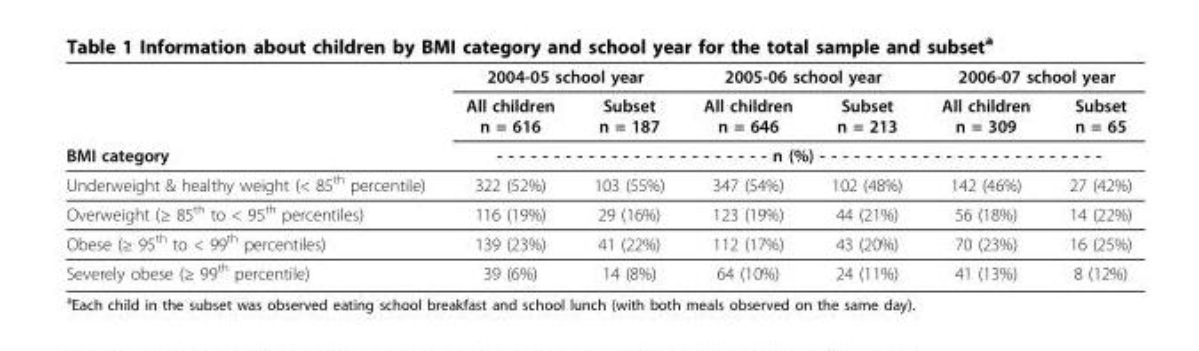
<table><thead><tr><td rowspan="3">BMI category</td><td colspan="2">2004-05 school year</td><td colspan="2">2005-06 school year</td><td colspan="2">2006-07 school year</td></tr><tr><td>All children n = 616</td><td>Subset n = 187</td><td>All children n = 646</td><td>Subset n = 213</td><td>All children n = 309</td><td>Subset n = 65</td></tr><tr><td colspan="6">- - - - - - - - - - - - - - - - - - - - - - - - n (%) - - - - - - - - - - - - - - - - - - - - - - - - -</td></tr></thead><tbody><tr><td>Underweight &amp; healthy weight (&lt; 85<sup>th</sup> percentile)</td><td>322 (52%)</td><td>103 (55%)</td><td>347 (54%)</td><td>102 (48%)</td><td>142 (46%)</td><td>27 (42%)</td></tr><tr><td>Overweight (≥ 85<sup>th</sup> to &lt; 95<sup>th</sup> percentiles)</td><td>116 (19%)</td><td>29 (16%)</td><td>123 (19%)</td><td>44 (21%)</td><td>56 (18%)</td><td>14 (22%)</td></tr><tr><td>Obese (≥ 95<sup>th</sup> to &lt; 99<sup>th</sup> percentiles)</td><td>139 (23%)</td><td>41 (22%)</td><td>112 (17%)</td><td>43 (20%)</td><td>70 (23%)</td><td>16 (25%)</td></tr><tr><td>Severely obese (≥ 99<sup>th</sup> percentile)</td><td>39 (6%)</td><td>14 (8%)</td><td>64 (10%)</td><td>24 (11%)</td><td>41 (13%)</td><td>8 (12%)</td></tr></tbody></table>